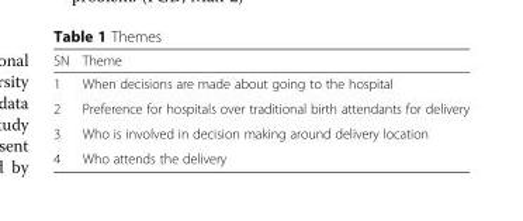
<table><thead><tr><td>SN</td><td>Theme</td></tr></thead><tbody><tr><td>1</td><td>When decisions are made about going to the hospital</td></tr><tr><td>2</td><td>Preference for hospitals over traditional birth attendants for delivery</td></tr><tr><td>3</td><td>Who is involved in decision making around delivery location</td></tr><tr><td>4</td><td>Who attends the delivery</td></tr></tbody></table>